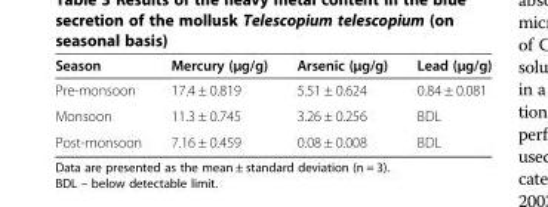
<table><thead><tr><td>Season</td><td>Mercury (μg/g)</td><td>Arsenic (μg/g)</td><td>Lead (μg/g)</td></tr></thead><tbody><tr><td>Pre-monsoon</td><td>17.4 ± 0.819</td><td>5.51 ± 0.624</td><td>0.84 ± 0.081</td></tr><tr><td>Monsoon</td><td>11.3 ± 0.745</td><td>3.26 ± 0.256</td><td>BDL</td></tr><tr><td>Post-monsoon</td><td>7.16 ± 0.459</td><td>0.08 ± 0.008</td><td>BDL</td></tr></tbody></table>